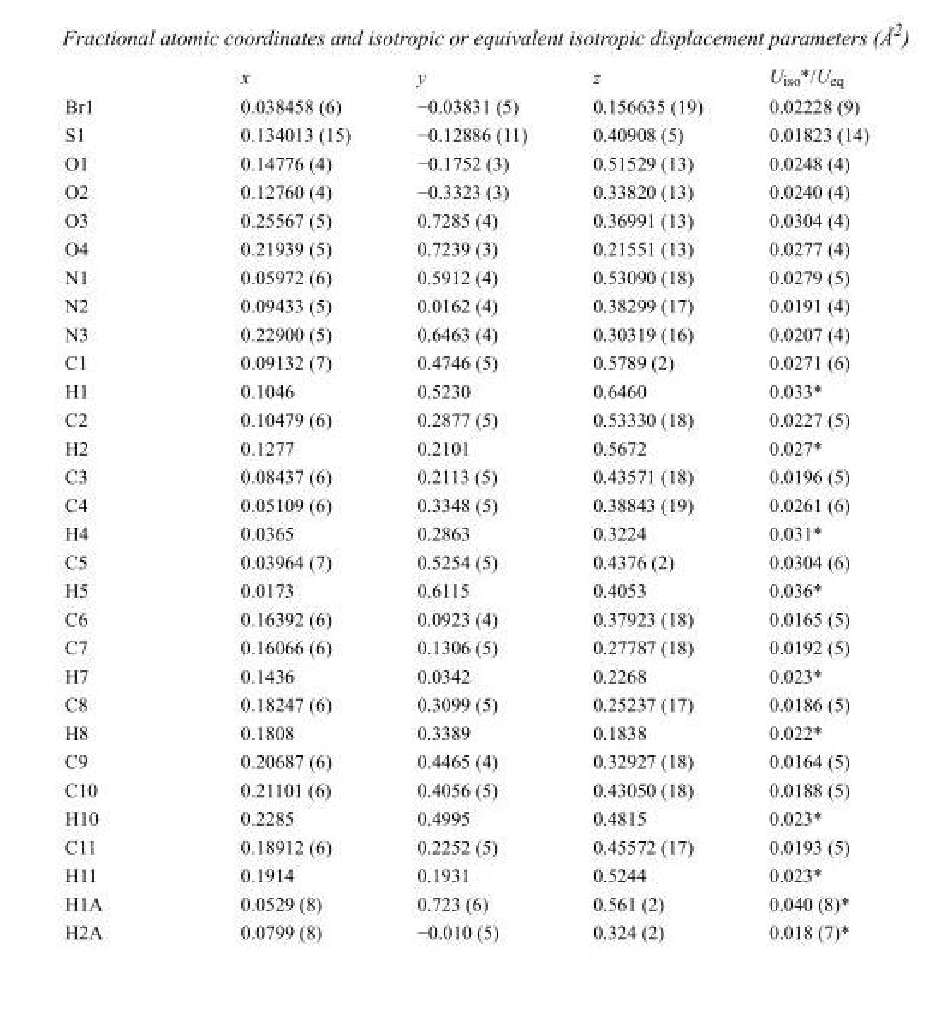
<table><thead><tr><td></td><td>x</td><td>y</td><td>z</td><td>U<sub>iso</sub>*/U<sub>eq</sub></td></tr></thead><tbody><tr><td>Br1</td><td>0.038458 (6)</td><td>−0.03831 (5)</td><td>0.156635 (19)</td><td>0.02228 (9)</td></tr><tr><td>S1</td><td>0.134013 (15)</td><td>−0.12886 (11)</td><td>0.40908 (5)</td><td>0.01823 (14)</td></tr><tr><td>O1</td><td>0.14776 (4)</td><td>−0.1752 (3)</td><td>0.51529 (13)</td><td>0.0248 (4)</td></tr><tr><td>O2</td><td>0.12760 (4)</td><td>−0.3323 (3)</td><td>0.33820 (13)</td><td>0.0240 (4)</td></tr><tr><td>O3</td><td>0.25567 (5)</td><td>0.7285 (4)</td><td>0.36991 (13)</td><td>0.0304 (4)</td></tr><tr><td>O4</td><td>0.21939 (5)</td><td>0.7239 (3)</td><td>0.21551 (13)</td><td>0.0277 (4)</td></tr><tr><td>N1</td><td>0.05972 (6)</td><td>0.5912 (4)</td><td>0.53090 (18)</td><td>0.0279 (5)</td></tr><tr><td>N2</td><td>0.09433 (5)</td><td>0.0162 (4)</td><td>0.38299 (17)</td><td>0.0191 (4)</td></tr><tr><td>N3</td><td>0.22900 (5)</td><td>0.6463 (4)</td><td>0.30319 (16)</td><td>0.0207 (4)</td></tr><tr><td>C1</td><td>0.09132 (7)</td><td>0.4746 (5)</td><td>0.5789 (2)</td><td>0.0271 (6)</td></tr><tr><td>H1</td><td>0.1046</td><td>0.5230</td><td>0.6460</td><td>0.033*</td></tr><tr><td>C2</td><td>0.10479 (6)</td><td>0.2877 (5)</td><td>0.53330 (18)</td><td>0.0227 (5)</td></tr><tr><td>H2</td><td>0.1277</td><td>0.2101</td><td>0.5672</td><td>0.027*</td></tr><tr><td>C3</td><td>0.08437 (6)</td><td>0.2113 (5)</td><td>0.43571 (18)</td><td>0.0196 (5)</td></tr><tr><td>C4</td><td>0.05109 (6)</td><td>0.3348 (5)</td><td>0.38843 (19)</td><td>0.0261 (6)</td></tr><tr><td>H4</td><td>0.0365</td><td>0.2863</td><td>0.3224</td><td>0.031*</td></tr><tr><td>C5</td><td>0.03964 (7)</td><td>0.5254 (5)</td><td>0.4376 (2)</td><td>0.0304 (6)</td></tr><tr><td>H5</td><td>0.0173</td><td>0.6115</td><td>0.4053</td><td>0.036*</td></tr><tr><td>C6</td><td>0.16392 (6)</td><td>0.0923 (4)</td><td>0.37923 (18)</td><td>0.0165 (5)</td></tr><tr><td>C7</td><td>0.16066 (6)</td><td>0.1306 (5)</td><td>0.27787 (18)</td><td>0.0192 (5)</td></tr><tr><td>H7</td><td>0.1436</td><td>0.0342</td><td>0.2268</td><td>0.023*</td></tr><tr><td>C8</td><td>0.18247 (6)</td><td>0.3099 (5)</td><td>0.25237 (17)</td><td>0.0186 (5)</td></tr><tr><td>H8</td><td>0.1808</td><td>0.3389</td><td>0.1838</td><td>0.022*</td></tr><tr><td>C9</td><td>0.20687 (6)</td><td>0.4465 (4)</td><td>0.32927 (18)</td><td>0.0164 (5)</td></tr><tr><td>C10</td><td>0.21101 (6)</td><td>0.4056 (5)</td><td>0.43050 (18)</td><td>0.0188 (5)</td></tr><tr><td>H10</td><td>0.2285</td><td>0.4995</td><td>0.4815</td><td>0.023*</td></tr><tr><td>C11</td><td>0.18912 (6)</td><td>0.2252 (5)</td><td>0.45572 (17)</td><td>0.0193 (5)</td></tr><tr><td>H11</td><td>0.1914</td><td>0.1931</td><td>0.5244</td><td>0.023*</td></tr><tr><td>H1A</td><td>0.0529 (8)</td><td>0.723 (6)</td><td>0.561 (2)</td><td>0.040 (8)*</td></tr><tr><td>H2A</td><td>0.0799 (8)</td><td>−0.010 (5)</td><td>0.324 (2)</td><td>0.018 (7)*</td></tr></tbody></table>